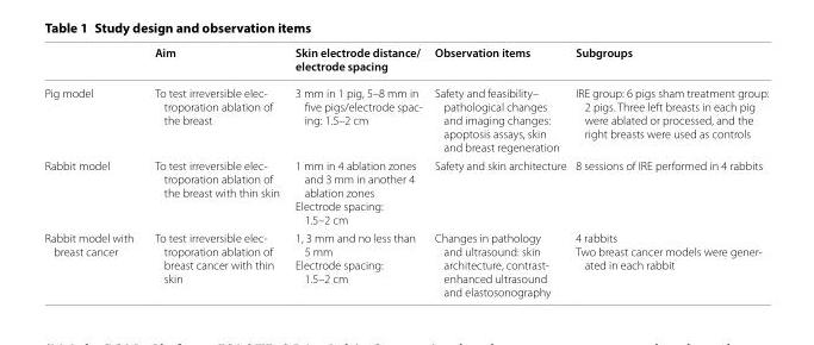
<table><thead><tr><td></td><td>Aim</td><td>Skin electrode distance/ electrode spacing</td><td>Observation items</td><td>Subgroups</td></tr></thead><tbody><tr><td>Pig model</td><td>To test irreversible elec- troporation ablation of the breast</td><td>3 mm in 1 pig, 5–8 mm in five pigs/electrode spac- ing: 1.5–2 cm</td><td>Safety and feasibility– pathological changes and imaging changes: apoptosis assays, skin and breast regeneration</td><td>IRE group: 6 pigs sham treatment group: 2 pigs. Three left breasts in each pig were ablated or processed, and the right breasts were used as controls</td></tr><tr><td>Rabbit model</td><td>To test irreversible elec- troporation ablation of the breast with thin skin</td><td>1 mm in 4 ablation zones and 3 mm in another 4 ablation zones Electrode spacing: 1.5–2 cm</td><td>Safety and skin architecture</td><td>8 sessions of IRE performed in 4 rabbits</td></tr><tr><td>Rabbit model with breast cancer</td><td>To test irreversible elec- troporation ablation of breast cancer with thin skin</td><td>1, 3 mm and no less than 5 mm Electrode spacing: 1.5–2 cm</td><td>Changes in pathology and ultrasound: skin architecture, contrast- enhanced ultrasound and elastosonography</td><td>4 rabbits Two breast cancer models were gener- ated in each rabbit</td></tr></tbody></table>